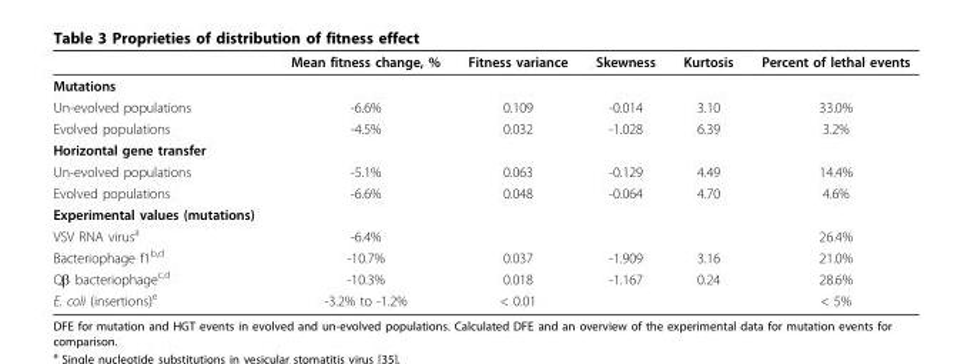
<table><thead><tr><td></td><td>Mean fitness change, %</td><td>Fitness variance</td><td>Skewness</td><td>Kurtosis</td><td>Percent of lethal events</td></tr></thead><tbody><tr><td colspan="6">Mutations</td></tr><tr><td>Un-evolved populations</td><td>-6.6%</td><td>0.109</td><td>-0.014</td><td>3.10</td><td>33.0%</td></tr><tr><td>Evolved populations</td><td>-4.5%</td><td>0.032</td><td>-1.028</td><td>6.39</td><td>3.2%</td></tr><tr><td colspan="6">Horizontal gene transfer</td></tr><tr><td>Un-evolved populations</td><td>-5.1%</td><td>0.063</td><td>-0.129</td><td>4.49</td><td>14.4%</td></tr><tr><td>Evolved populations</td><td>-6.6%</td><td>0.048</td><td>-0.064</td><td>4.70</td><td>4.6%</td></tr><tr><td colspan="6">Experimental values (mutations)</td></tr><tr><td>VSV RNA virus<sup>a</sup></td><td>-6.4%</td><td></td><td></td><td></td><td>26.4%</td></tr><tr><td>Bacteriophage f1<sup>b,d</sup></td><td>-10.7%</td><td>0.037</td><td>-1.909</td><td>3.16</td><td>21.0%</td></tr><tr><td>Qβ bacteriophage<sup>c,d</sup></td><td>-10.3%</td><td>0.018</td><td>-1.167</td><td>0.24</td><td>28.6%</td></tr><tr><td>E. coli (insertions)<sup>e</sup></td><td>-3.2% to -1.2%</td><td>&lt; 0.01</td><td></td><td></td><td>&lt; 5%</td></tr></tbody></table>